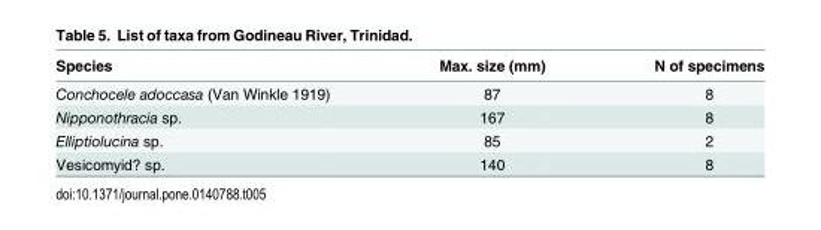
<table><thead><tr><td>Species</td><td>Max. size (mm)</td><td>N of specimens</td></tr></thead><tbody><tr><td>Conchocele adoccasa (Van Winkle 1919)</td><td>87</td><td>8</td></tr><tr><td>Nipponothracia sp.</td><td>167</td><td>8</td></tr><tr><td>Elliptiolucina sp.</td><td>85</td><td>2</td></tr><tr><td>Vesicomyid? sp.</td><td>140</td><td>8</td></tr></tbody></table>